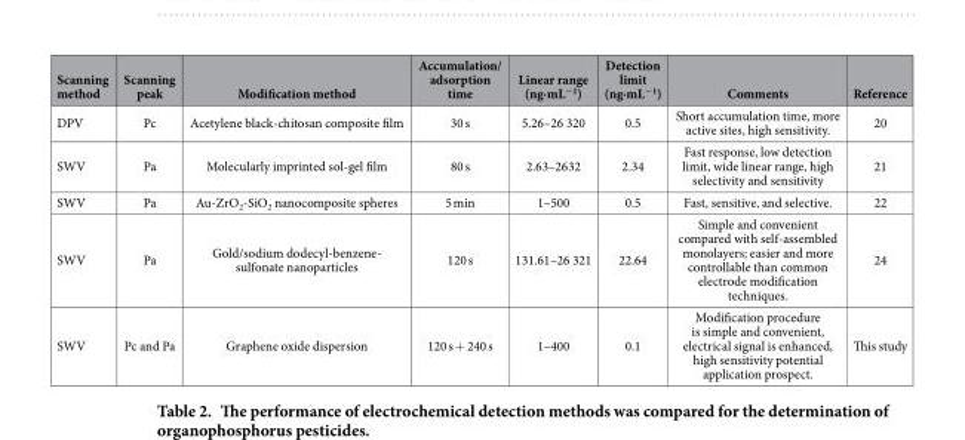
<table><thead><tr><td>Scanning method</td><td>Scanning peak</td><td>Modification method</td><td>Accumulation/ adsorption time</td><td>Linear range (ng·mL<sup>−1</sup>)</td><td>Detection limit (ng·mL<sup>−1</sup>)</td><td>Comments</td><td>Reference</td></tr></thead><tbody><tr><td>DPV</td><td>Pc</td><td>Acetylene black-chitosan composite film</td><td>30 s</td><td>5.26–26 320</td><td>0.5</td><td>Short accumulation time, more active sites, high sensitivity.</td><td>20</td></tr><tr><td>SWV</td><td>Pa</td><td>Molecularly imprinted sol-gel film</td><td>80 s</td><td>2.63–2632</td><td>2.34</td><td>Fast response, low detection limit, wide linear range, high selectivity and sensitivity</td><td>21</td></tr><tr><td>SWV</td><td>Pa</td><td>Au-ZrO<sub>2</sub>-SiO<sub>2</sub> nanocomposite spheres</td><td>5 min</td><td>1–500</td><td>0.5</td><td>Fast, sensitive, and selective.</td><td>22</td></tr><tr><td>SWV</td><td>Pa</td><td>Gold/sodium dodecyl-benzene- sulfonate nanoparticles</td><td>120 s</td><td>131.61–26 321</td><td>22.64</td><td>Simple and convenient compared with self-assembled monolayers; easier and more controllable than common electrode modification techniques.</td><td>24</td></tr><tr><td>SWV</td><td>Pc and Pa</td><td>Graphene oxide dispersion</td><td>120 s + 240 s</td><td>1–400</td><td>0.1</td><td>Modification procedure is simple and convenient, electrical signal is enhanced, high sensitivity potential application prospect.</td><td>This study</td></tr></tbody></table>